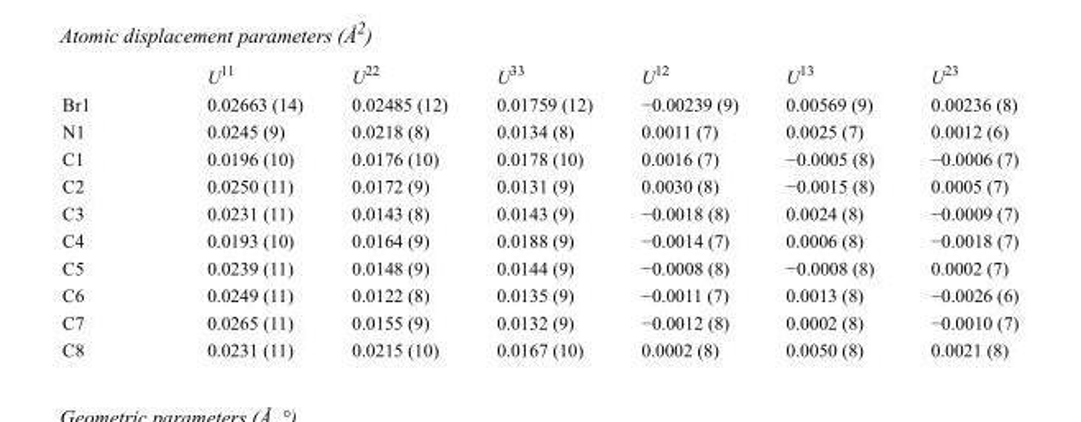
<table><thead><tr><td></td><td>U<sup>11</sup></td><td>U<sup>22</sup></td><td>U<sup>33</sup></td><td>U<sup>12</sup></td><td>U<sup>13</sup></td><td>U<sup>23</sup></td></tr></thead><tbody><tr><td>Br1</td><td>0.02663 (14)</td><td>0.02485 (12)</td><td>0.01759 (12)</td><td>−0.00239 (9)</td><td>0.00569 (9)</td><td>0.00236 (8)</td></tr><tr><td>N1</td><td>0.0245 (9)</td><td>0.0218 (8)</td><td>0.0134 (8)</td><td>0.0011 (7)</td><td>0.0025 (7)</td><td>0.0012 (6)</td></tr><tr><td>C1</td><td>0.0196 (10)</td><td>0.0176 (10)</td><td>0.0178 (10)</td><td>0.0016 (7)</td><td>−0.0005 (8)</td><td>−0.0006 (7)</td></tr><tr><td>C2</td><td>0.0250 (11)</td><td>0.0172 (9)</td><td>0.0131 (9)</td><td>0.0030 (8)</td><td>−0.0015 (8)</td><td>0.0005 (7)</td></tr><tr><td>C3</td><td>0.0231 (11)</td><td>0.0143 (8)</td><td>0.0143 (9)</td><td>−0.0018 (8)</td><td>0.0024 (8)</td><td>−0.0009 (7)</td></tr><tr><td>C4</td><td>0.0193 (10)</td><td>0.0164 (9)</td><td>0.0188 (9)</td><td>−0.0014 (7)</td><td>0.0006 (8)</td><td>−0.0018 (7)</td></tr><tr><td>C5</td><td>0.0239 (11)</td><td>0.0148 (9)</td><td>0.0144 (9)</td><td>−0.0008 (8)</td><td>−0.0008 (8)</td><td>0.0002 (7)</td></tr><tr><td>C6</td><td>0.0249 (11)</td><td>0.0122 (8)</td><td>0.0135 (9)</td><td>−0.0011 (7)</td><td>0.0013 (8)</td><td>−0.0026 (6)</td></tr><tr><td>C7</td><td>0.0265 (11)</td><td>0.0155 (9)</td><td>0.0132 (9)</td><td>−0.0012 (8)</td><td>0.0002 (8)</td><td>−0.0010 (7)</td></tr><tr><td>C8</td><td>0.0231 (11)</td><td>0.0215 (10)</td><td>0.0167 (10)</td><td>0.0002 (8)</td><td>0.0050 (8)</td><td>0.0021 (8)</td></tr></tbody></table>